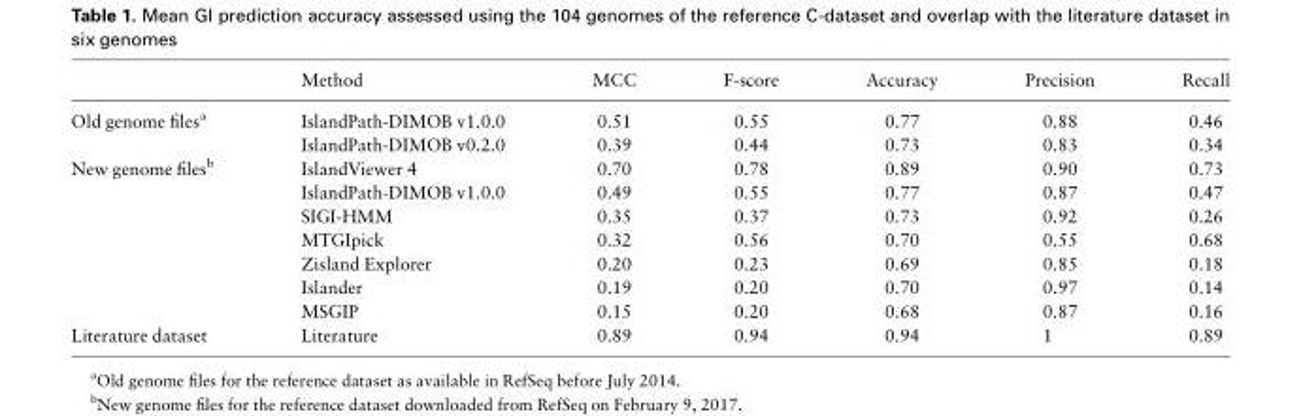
<table><thead><tr><td></td><td>Method</td><td>MCC</td><td>F-score</td><td>Accuracy</td><td>Precision</td><td>Recall</td></tr></thead><tbody><tr><td rowspan="2">Old genome files<sup>a</sup></td><td>IslandPath-DIMOB v1.0.0</td><td>0.51</td><td>0.55</td><td>0.77</td><td>0.88</td><td>0.46</td></tr><tr><td>IslandPath-DIMOB v0.2.0</td><td>0.39</td><td>0.44</td><td>0.73</td><td>0.83</td><td>0.34</td></tr><tr><td rowspan="7">New genome files<sup>b</sup></td><td>IslandViewer 4</td><td>0.70</td><td>0.78</td><td>0.89</td><td>0.90</td><td>0.73</td></tr><tr><td>IslandPath-DIMOB v1.0.0</td><td>0.49</td><td>0.55</td><td>0.77</td><td>0.87</td><td>0.47</td></tr><tr><td>SIGI-HMM</td><td>0.35</td><td>0.37</td><td>0.73</td><td>0.92</td><td>0.26</td></tr><tr><td>MTGIpick</td><td>0.32</td><td>0.56</td><td>0.70</td><td>0.55</td><td>0.68</td></tr><tr><td>Zisland Explorer</td><td>0.20</td><td>0.23</td><td>0.69</td><td>0.85</td><td>0.18</td></tr><tr><td>Islander</td><td>0.19</td><td>0.20</td><td>0.70</td><td>0.97</td><td>0.14</td></tr><tr><td>MSGIP</td><td>0.15</td><td>0.20</td><td>0.68</td><td>0.87</td><td>0.16</td></tr><tr><td>Literature dataset</td><td>Literature</td><td>0.89</td><td>0.94</td><td>0.94</td><td>1</td><td>0.89</td></tr></tbody></table>